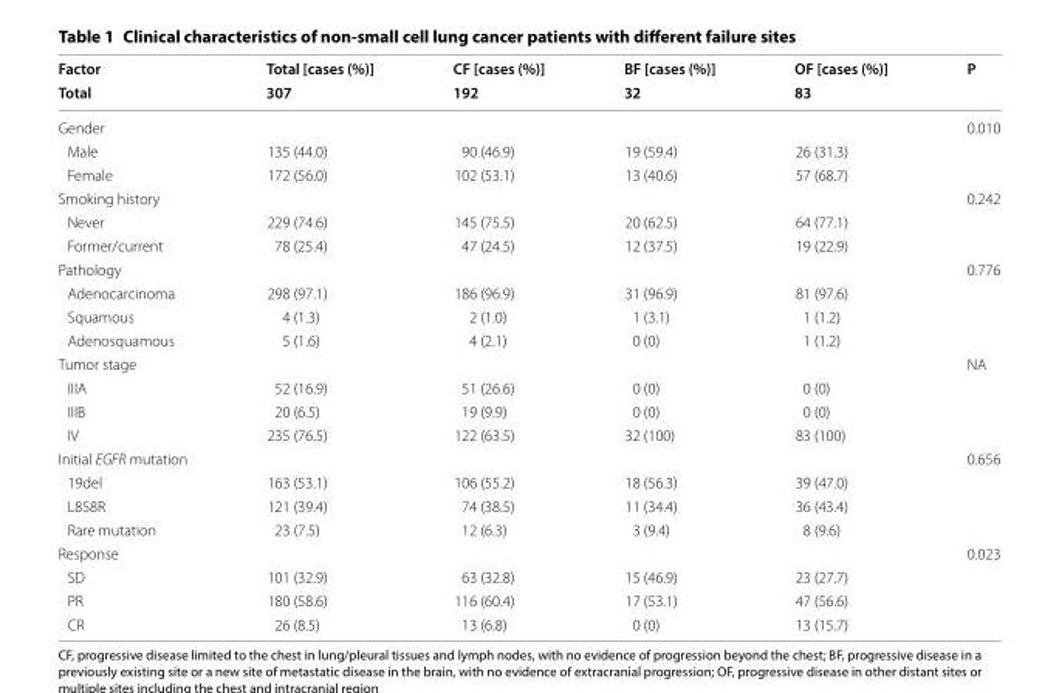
<table><thead><tr><td rowspan="2">Factor Total</td><td rowspan="2">Total [cases (%)] 307</td><td rowspan="2">CF [cases (%)] 192</td><td rowspan="2">BF [cases (%)] 32</td><td rowspan="2">OF [cases (%)] 83</td><td rowspan="2">P</td></tr><tr></tr></thead><tbody><tr><td>Gender</td><td></td><td></td><td></td><td></td><td>0.010</td></tr><tr><td>Male</td><td>135 (44.0)</td><td>90 (46.9)</td><td>19 (59.4)</td><td>26 (31.3)</td><td></td></tr><tr><td>Female</td><td>172 (56.0)</td><td>102 (53.1)</td><td>13 (40.6)</td><td>57 (68.7)</td><td></td></tr><tr><td>Smoking history</td><td></td><td></td><td></td><td></td><td>0.242</td></tr><tr><td>Never</td><td>229 (74.6)</td><td>145 (75.5)</td><td>20 (62.5)</td><td>64 (77.1)</td><td></td></tr><tr><td>Former/current</td><td>78 (25.4)</td><td>47 (24.5)</td><td>12 (37.5)</td><td>19 (22.9)</td><td></td></tr><tr><td>Pathology</td><td></td><td></td><td></td><td></td><td>0.776</td></tr><tr><td>Adenocarcinoma</td><td>298 (97.1)</td><td>186 (96.9)</td><td>31 (96.9)</td><td>81 (97.6)</td><td></td></tr><tr><td>Squamous</td><td>4 (1.3)</td><td>2 (1.0)</td><td>1 (3.1)</td><td>1 (1.2)</td><td></td></tr><tr><td>Adenosquamous</td><td>5 (1.6)</td><td>4 (2.1)</td><td>0 (0)</td><td>1 (1.2)</td><td></td></tr><tr><td>Tumor stage</td><td></td><td></td><td></td><td></td><td>NA</td></tr><tr><td>IIIA</td><td>52 (16.9)</td><td>51 (26.6)</td><td>0 (0)</td><td>0 (0)</td><td></td></tr><tr><td>IIIB</td><td>20 (6.5)</td><td>19 (9.9)</td><td>0 (0)</td><td>0 (0)</td><td></td></tr><tr><td>IV</td><td>235 (76.5)</td><td>122 (63.5)</td><td>32 (100)</td><td>83 (100)</td><td></td></tr><tr><td>Initial EGFR mutation</td><td></td><td></td><td></td><td></td><td>0.656</td></tr><tr><td>19del</td><td>163 (53.1)</td><td>106 (55.2)</td><td>18 (56.3)</td><td>39 (47.0)</td><td></td></tr><tr><td>L858R</td><td>121 (39.4)</td><td>74 (38.5)</td><td>11 (34.4)</td><td>36 (43.4)</td><td></td></tr><tr><td>Rare mutation</td><td>23 (7.5)</td><td>12 (6.3)</td><td>3 (9.4)</td><td>8 (9.6)</td><td></td></tr><tr><td>Response</td><td></td><td></td><td></td><td></td><td>0.023</td></tr><tr><td>SD</td><td>101 (32.9)</td><td>63 (32.8)</td><td>15 (46.9)</td><td>23 (27.7)</td><td></td></tr><tr><td>PR</td><td>180 (58.6)</td><td>116 (60.4)</td><td>17 (53.1)</td><td>47 (56.6)</td><td></td></tr><tr><td>CR</td><td>26 (8.5)</td><td>13 (6.8)</td><td>0 (0)</td><td>13 (15.7)</td><td></td></tr></tbody></table>